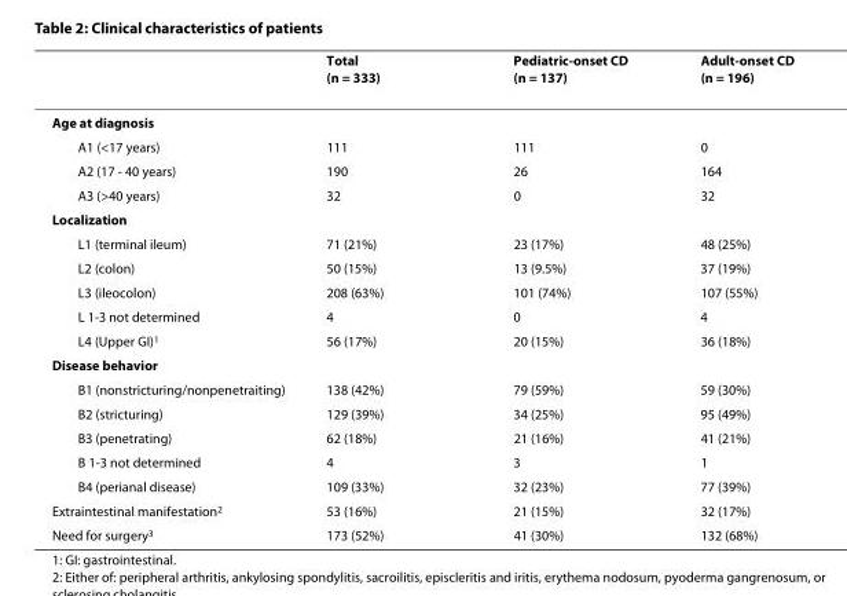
<table><thead><tr><td></td><td>Total (n = 333)</td><td>Pediatric-onset CD (n = 137)</td><td>Adult-onset CD (n = 196)</td></tr></thead><tbody><tr><td colspan="4">Age at diagnosis</td></tr><tr><td>A1 (&lt;17 years)</td><td>111</td><td>111</td><td>0</td></tr><tr><td>A2 (17 - 40 years)</td><td>190</td><td>26</td><td>164</td></tr><tr><td>A3 (&gt;40 years)</td><td>32</td><td>0</td><td>32</td></tr><tr><td colspan="4">Localization</td></tr><tr><td>L1 (terminal ileum)</td><td>71 (21%)</td><td>23 (17%)</td><td>48 (25%)</td></tr><tr><td>L2 (colon)</td><td>50 (15%)</td><td>13 (9.5%)</td><td>37 (19%)</td></tr><tr><td>L3 (ileocolon)</td><td>208 (63%)</td><td>101 (74%)</td><td>107 (55%)</td></tr><tr><td>L 1-3 not determined</td><td>4</td><td>0</td><td>4</td></tr><tr><td>L4 (Upper GI)<sup>1</sup></td><td>56 (17%)</td><td>20 (15%)</td><td>36 (18%)</td></tr><tr><td colspan="4">Disease behavior</td></tr><tr><td>B1 (nonstricturing/nonpenetraiting)</td><td>138 (42%)</td><td>79 (59%)</td><td>59 (30%)</td></tr><tr><td>B2 (stricturing)</td><td>129 (39%)</td><td>34 (25%)</td><td>95 (49%)</td></tr><tr><td>B3 (penetrating)</td><td>62 (18%)</td><td>21 (16%)</td><td>41 (21%)</td></tr><tr><td>B 1-3 not determined</td><td>4</td><td>3</td><td>1</td></tr><tr><td>B4 (perianal disease)</td><td>109 (33%)</td><td>32 (23%)</td><td>77 (39%)</td></tr><tr><td>Extraintestinal manifestation<sup>2</sup></td><td>53 (16%)</td><td>21 (15%)</td><td>32 (17%)</td></tr><tr><td>Need for surgery<sup>3</sup></td><td>173 (52%)</td><td>41 (30%)</td><td>132 (68%)</td></tr></tbody></table>